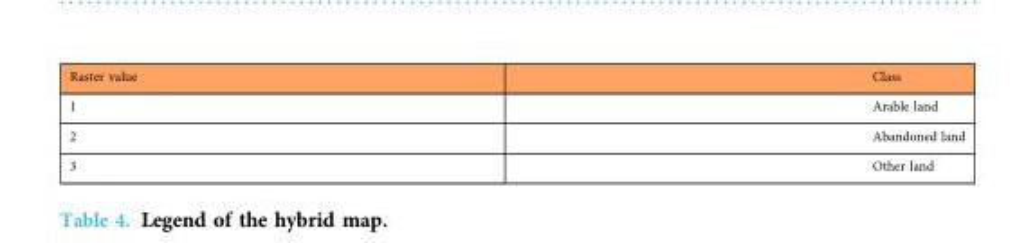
<table><thead><tr><td>Raster value</td><td>Class</td></tr></thead><tbody><tr><td>1</td><td>Arable land</td></tr><tr><td>2</td><td>Abandoned land</td></tr><tr><td>3</td><td>Other land</td></tr></tbody></table>